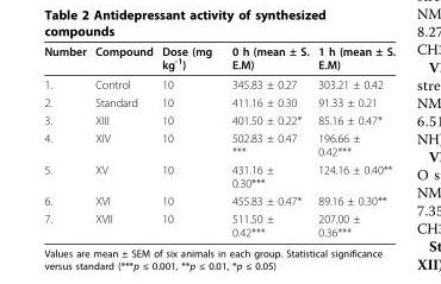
<table><thead><tr><td>Number</td><td>Compound</td><td>Dose (mg kg<sup>-1</sup>)</td><td>0 h (mean ± S. E.M)</td><td>1 h (mean ± S. E.M)</td></tr></thead><tbody><tr><td>1.</td><td>Control</td><td>10</td><td>345.83 ± 0.27</td><td>303.21 ± 0.42</td></tr><tr><td>2.</td><td>Standard</td><td>10</td><td>411.16 ± 0.30</td><td>91.33 ± 0.21</td></tr><tr><td>3.</td><td>XIII</td><td>10</td><td>401.50 ± 0.22*</td><td>85.16 ± 0.47*</td></tr><tr><td>4.</td><td>XIV</td><td>10</td><td>502.83 ± 0.47 ***</td><td>196.66 ± 0.42***</td></tr><tr><td>5.</td><td>XV</td><td>10</td><td>431.16 ± 0.30***</td><td>124.16 ± 0.40**</td></tr><tr><td>6.</td><td>XVI</td><td>10</td><td>455.83 ± 0.47*</td><td>89.16 ± 0.30**</td></tr><tr><td>7.</td><td>XVII</td><td>10</td><td>511.50 ± 0.42***</td><td>207.00 ± 0.36***</td></tr></tbody></table>